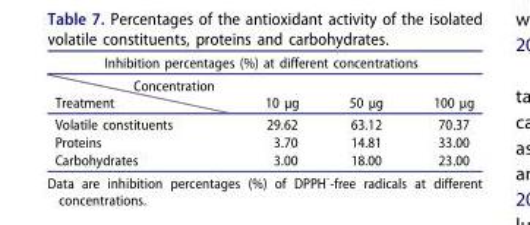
<table><thead><tr><td colspan="4">Inhibition percentages (%) at different concentrations</td></tr><tr><td>Concentration Treatment</td><td>10 µg</td><td>50 µg</td><td>100 µg</td></tr></thead><tbody><tr><td>Volatile constituents</td><td>29.62</td><td>63.12</td><td>70.37</td></tr><tr><td>Proteins</td><td>3.70</td><td>14.81</td><td>33.00</td></tr><tr><td>Carbohydrates</td><td>3.00</td><td>18.00</td><td>23.00</td></tr></tbody></table>